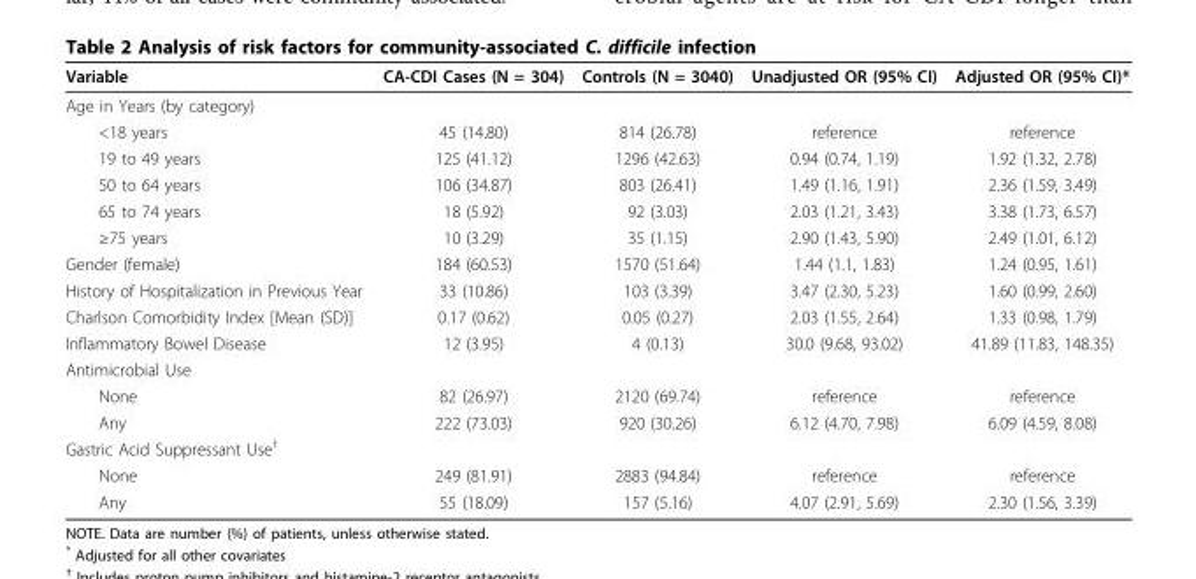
<table><thead><tr><td>Variable</td><td>CA-CDI Cases (N = 304)</td><td>Controls (N = 3040)</td><td>Unadjusted OR (95% CI)</td><td>Adjusted OR (95% CI)*</td></tr></thead><tbody><tr><td colspan="5">Age in Years (by category)</td></tr><tr><td>&lt;18 years</td><td>45 (14.80)</td><td>814 (26.78)</td><td>reference</td><td>reference</td></tr><tr><td>19 to 49 years</td><td>125 (41.12)</td><td>1296 (42.63)</td><td>0.94 (0.74, 1.19)</td><td>1.92 (1.32, 2.78)</td></tr><tr><td>50 to 64 years</td><td>106 (34.87)</td><td>803 (26.41)</td><td>1.49 (1.16, 1.91)</td><td>2.36 (1.59, 3.49)</td></tr><tr><td>65 to 74 years</td><td>18 (5.92)</td><td>92 (3.03)</td><td>2.03 (1.21, 3.43)</td><td>3.38 (1.73, 6.57)</td></tr><tr><td>≥75 years</td><td>10 (3.29)</td><td>35 (1.15)</td><td>2.90 (1.43, 5.90)</td><td>2.49 (1.01, 6.12)</td></tr><tr><td>Gender (female)</td><td>184 (60.53)</td><td>1570 (51.64)</td><td>1.44 (1.1, 1.83)</td><td>1.24 (0.95, 1.61)</td></tr><tr><td>History of Hospitalization in Previous Year</td><td>33 (10.86)</td><td>103 (3.39)</td><td>3.47 (2.30, 5.23)</td><td>1.60 (0.99, 2.60)</td></tr><tr><td>Charlson Comorbidity Index [Mean (SD)]</td><td>0.17 (0.62)</td><td>0.05 (0.27)</td><td>2.03 (1.55, 2.64)</td><td>1.33 (0.98, 1.79)</td></tr><tr><td>Inflammatory Bowel Disease</td><td>12 (3.95)</td><td>4 (0.13)</td><td>30.0 (9.68, 93.02)</td><td>41.89 (11.83, 148.35)</td></tr><tr><td colspan="5">Antimicrobial Use</td></tr><tr><td>None</td><td>82 (26.97)</td><td>2120 (69.74)</td><td>reference</td><td>reference</td></tr><tr><td>Any</td><td>222 (73.03)</td><td>920 (30.26)</td><td>6.12 (4.70, 7.98)</td><td>6.09 (4.59, 8.08)</td></tr><tr><td colspan="5">Gastric Acid Suppressant Use<sup>†</sup></td></tr><tr><td>None</td><td>249 (81.91)</td><td>2883 (94.84)</td><td>reference</td><td>reference</td></tr><tr><td>Any</td><td>55 (18.09)</td><td>157 (5.16)</td><td>4.07 (2.91, 5.69)</td><td>2.30 (1.56, 3.39)</td></tr></tbody></table>